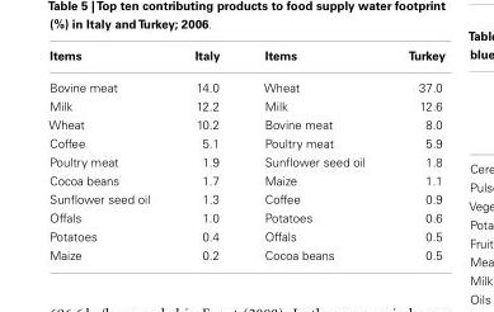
<table><thead><tr><td>Items</td><td>Italy</td><td>Items</td><td>Turkey</td></tr></thead><tbody><tr><td>Bovine meat</td><td>14.0</td><td>Wheat</td><td>37.0</td></tr><tr><td>Milk</td><td>12.2</td><td>Milk</td><td>12.6</td></tr><tr><td>Wheat</td><td>10.2</td><td>Bovine meat</td><td>8.0</td></tr><tr><td>Coffee</td><td>5.1</td><td>Poultry meat</td><td>5.9</td></tr><tr><td>Poultry meat</td><td>1.9</td><td>Sunflower seed oil</td><td>1.8</td></tr><tr><td>Cocoa beans</td><td>1.7</td><td>Maize</td><td>1.1</td></tr><tr><td>Sunflower seed oil</td><td>1.3</td><td>Coffee</td><td>0.9</td></tr><tr><td>Offals</td><td>1.0</td><td>Potatoes</td><td>0.6</td></tr><tr><td>Potatoes</td><td>0.4</td><td>Offals</td><td>0.5</td></tr><tr><td>Maize</td><td>0.2</td><td>Cocoa beans</td><td>0.5</td></tr></tbody></table>